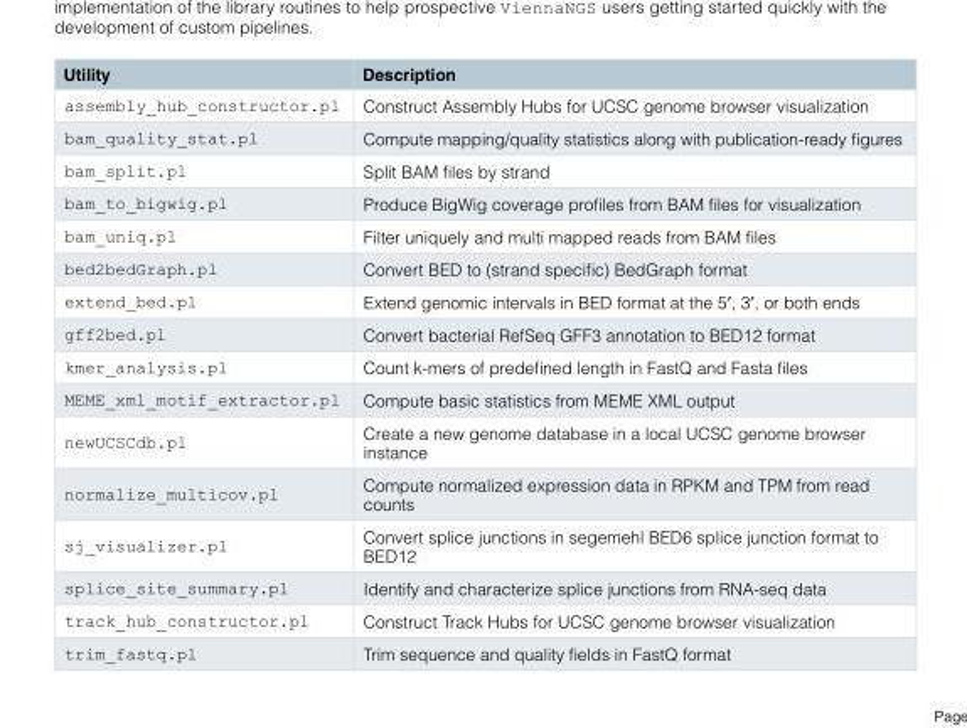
<table><thead><tr><td>Utility</td><td>Description</td></tr></thead><tbody><tr><td>assembly_hub_constructor.pl</td><td>Construct Assembly Hubs for UCSC genome browser visualization</td></tr><tr><td>bam_quality_stat.pl</td><td>Compute mapping/quality statistics along with publication-ready figures</td></tr><tr><td>bam_split.pl</td><td>Split BAM files by strand</td></tr><tr><td>bam_to_bigwig.pl</td><td>Produce BigWig coverage profiles from BAM files for visualization</td></tr><tr><td>bam_uniq.pl</td><td>Filter uniquely and multi mapped reads from BAM files</td></tr><tr><td>bed2bedGraph.pl</td><td>Convert BED to (strand specific) BedGraph format</td></tr><tr><td>extend_bed.pl</td><td>Extend genomic intervals in BED format at the 5′, 3′, or both ends</td></tr><tr><td>gff2bed.pl</td><td>Convert bacterial RefSeq GFF3 annotation to BED12 format</td></tr><tr><td>kmer_analysis.pl</td><td>Count k-mers of predefined length in FastQ and Fasta files</td></tr><tr><td>MEME_xml_motif_extractor.pl</td><td>Compute basic statistics from MEME XML output</td></tr><tr><td>newUCSCdb.pl</td><td>Create a new genome database in a local UCSC genome browser instance</td></tr><tr><td>normalize_multicov.pl</td><td>Compute normalized expression data in RPKM and TPM from read counts</td></tr><tr><td>sj_visualizer.pl</td><td>Convert splice junctions in segemehl BED6 splice junction format to BED12</td></tr><tr><td>splice_site_summary.pl</td><td>Identify and characterize splice junctions from RNA-seq data</td></tr><tr><td>track_hub_constructor.pl</td><td>Construct Track Hubs for UCSC genome browser visualization</td></tr><tr><td>trim_fastq.pl</td><td>Trim sequence and quality fields in FastQ format</td></tr></tbody></table>